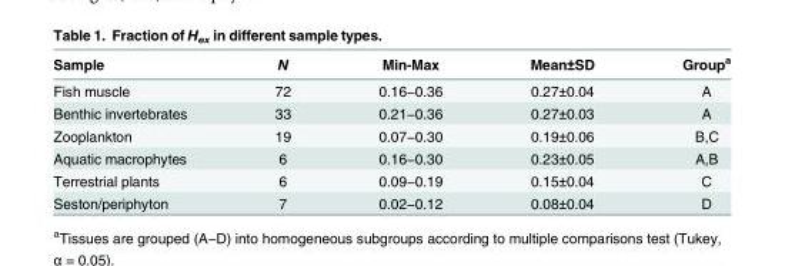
<table><thead><tr><td>Sample</td><td>N</td><td>Min-Max</td><td>Mean±SD</td><td>Group<sup>a</sup></td></tr></thead><tbody><tr><td>Fish muscle</td><td>72</td><td>0.16−0.36</td><td>0.27±0.04</td><td>A</td></tr><tr><td>Benthic invertebrates</td><td>33</td><td>0.21−0.36</td><td>0.27±0.03</td><td>A</td></tr><tr><td>Zooplankton</td><td>19</td><td>0.07−0.30</td><td>0.19±0.06</td><td>B,C</td></tr><tr><td>Aquatic macrophytes</td><td>6</td><td>0.16−0.30</td><td>0.23±0.05</td><td>A,B</td></tr><tr><td>Terrestrial plants</td><td>6</td><td>0.09−0.19</td><td>0.15±0.04</td><td>C</td></tr><tr><td>Seston/periphyton</td><td>7</td><td>0.02−0.12</td><td>0.08±0.04</td><td>D</td></tr></tbody></table>